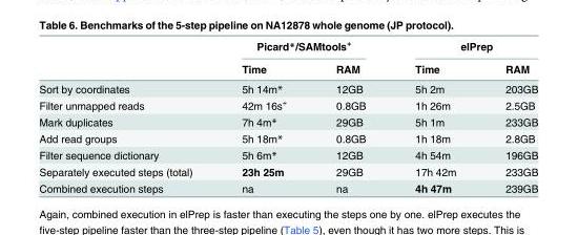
<table><thead><tr><td rowspan="2"></td><td colspan="2">Picard*/SAMtools<sup>+</sup></td><td colspan="2">elPrep</td></tr><tr><td>Time</td><td>RAM</td><td>Time</td><td>RAM</td></tr></thead><tbody><tr><td>Sort by coordinates</td><td>5h 14m*</td><td>12GB</td><td>5h 2m</td><td>203GB</td></tr><tr><td>Filter unmapped reads</td><td>42m 16s<sup>+</sup></td><td>0.8GB</td><td>1h 26m</td><td>2.5GB</td></tr><tr><td>Mark duplicates</td><td>7h 4m*</td><td>29GB</td><td>5h 1m</td><td>233GB</td></tr><tr><td>Add read groups</td><td>5h 18m*</td><td>0.8GB</td><td>1h 18m</td><td>2.8GB</td></tr><tr><td>Filter sequence dictionary</td><td>5h 6m*</td><td>12GB</td><td>4h 54m</td><td>196GB</td></tr><tr><td>Separately executed steps (total)</td><td>23h 25m</td><td>29GB</td><td>17h 42m</td><td>233GB</td></tr><tr><td>Combined execution steps</td><td>na</td><td>na</td><td>4h 47m</td><td>239GB</td></tr></tbody></table>